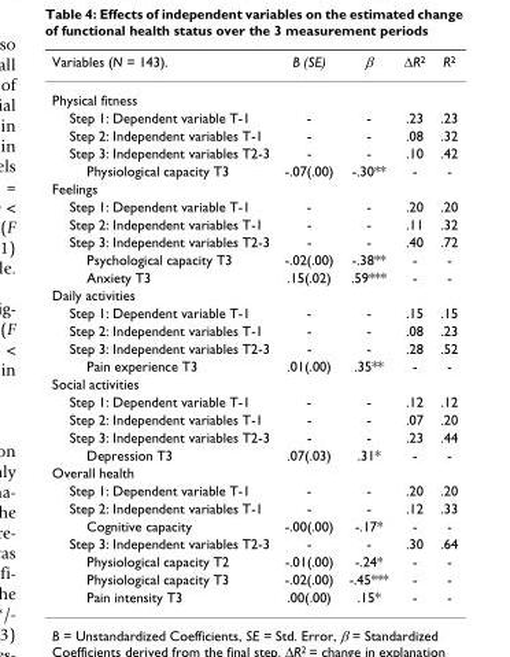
<table><thead><tr><td>Variables (N = 143).</td><td>B (SE)</td><td>β</td><td>∆R2</td><td>R<sup>2</sup></td></tr></thead><tbody><tr><td colspan="5">Physical fitness</td></tr><tr><td>Step 1: Dependent variable T-1</td><td>-</td><td>-</td><td>.23</td><td>.23</td></tr><tr><td>Step 2: Independent variables T-1</td><td>-</td><td>-</td><td>.08</td><td>.32</td></tr><tr><td>Step 3: Independent variables T2-3</td><td>-</td><td>-</td><td>.10</td><td>.42</td></tr><tr><td>Physiological capacity T3</td><td>-.07(.00)</td><td>-.30**</td><td>-</td><td>-</td></tr><tr><td colspan="5">Feelings</td></tr><tr><td>Step 1: Dependent variable T-1</td><td>-</td><td>-</td><td>.20</td><td>.20</td></tr><tr><td>Step 2: Independent variables T-1</td><td>-</td><td>-</td><td>.11</td><td>.32</td></tr><tr><td>Step 3: Independent variables T2-3</td><td>-</td><td>-</td><td>.40</td><td>.72</td></tr><tr><td>Psychological capacity T3</td><td>-.02(.00)</td><td>-.38**</td><td>-</td><td>-</td></tr><tr><td>Anxiety T3</td><td>.15(.02)</td><td>.59***</td><td>-</td><td>-</td></tr><tr><td colspan="5">Daily activities</td></tr><tr><td>Step 1: Dependent variable T-1</td><td>-</td><td>-</td><td>.15</td><td>.15</td></tr><tr><td>Step 2: Independent variables T-1</td><td>-</td><td>-</td><td>.08</td><td>.23</td></tr><tr><td>Step 3: Independent variables T2-3</td><td>-</td><td>-</td><td>.28</td><td>.52</td></tr><tr><td>Pain experience T3</td><td>.01(.00)</td><td>.35**</td><td>-</td><td>-</td></tr><tr><td colspan="5">Social activities</td></tr><tr><td>Step 1: Dependent variable T-1</td><td>-</td><td>-</td><td>.12</td><td>.12</td></tr><tr><td>Step 2: Independent variables T-1</td><td>-</td><td>-</td><td>.07</td><td>.20</td></tr><tr><td>Step 3: Independent variables T2-3</td><td>-</td><td>-</td><td>.23</td><td>.44</td></tr><tr><td>Depression T3</td><td>.07(.03)</td><td>.31*</td><td>-</td><td>-</td></tr><tr><td colspan="5">Overall health</td></tr><tr><td>Step 1: Dependent variable T-1</td><td>-</td><td>-</td><td>.20</td><td>.20</td></tr><tr><td>Step 2: Independent variables T-1</td><td>-</td><td>-</td><td>.12</td><td>.33</td></tr><tr><td>Cognitive capacity</td><td>-.00(.00)</td><td>-.17*</td><td>-</td><td>-</td></tr><tr><td>Step 3: Independent variables T2-3</td><td>-</td><td>-</td><td>.30</td><td>.64</td></tr><tr><td>Physiological capacity T2</td><td>-.01(.00)</td><td>-.24*</td><td>-</td><td>-</td></tr><tr><td>Physiological capacity T3</td><td>-.02(.00)</td><td>-.45***</td><td>-</td><td>-</td></tr><tr><td>Pain intensity T3</td><td>.00(.00)</td><td>.15*</td><td>-</td><td>-</td></tr></tbody></table>